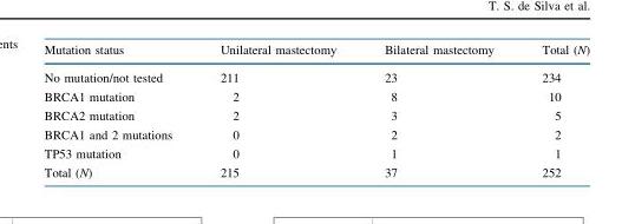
<table><thead><tr><td>Mutation status</td><td>Unilateral mastectomy</td><td>Bilateral mastectomy</td><td>Total (N)</td></tr></thead><tbody><tr><td>No mutation/not tested</td><td>211</td><td>23</td><td>234</td></tr><tr><td>BRCA1 mutation</td><td>2</td><td>8</td><td>10</td></tr><tr><td>BRCA2 mutation</td><td>2</td><td>3</td><td>5</td></tr><tr><td>BRCA1 and 2 mutations</td><td>0</td><td>2</td><td>2</td></tr><tr><td>TP53 mutation</td><td>0</td><td>1</td><td>1</td></tr><tr><td>Total (N)</td><td>215</td><td>37</td><td>252</td></tr></tbody></table>